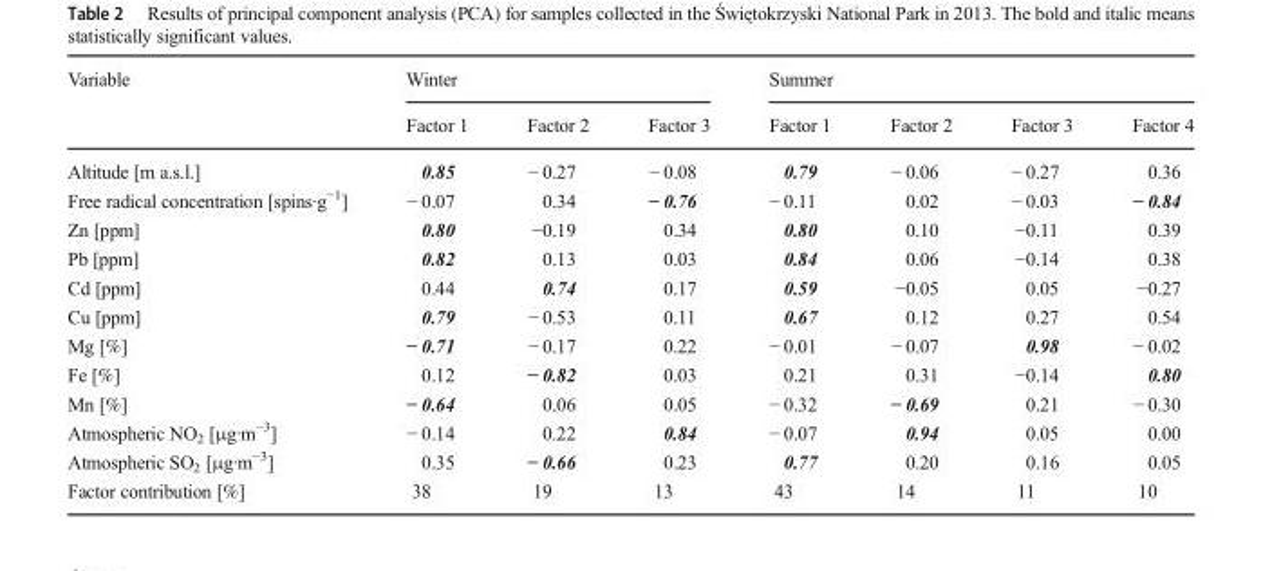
<table><thead><tr><td rowspan="2">Variable</td><td colspan="3">Winter</td><td colspan="4">Summer</td></tr><tr><td>Factor 1</td><td>Factor 2</td><td>Factor 3</td><td>Factor 1</td><td>Factor 2</td><td>Factor 3</td><td>Factor 4</td></tr></thead><tbody><tr><td>Altitude [m a.s.l.]</td><td>0.85</td><td>− 0.27</td><td>− 0.08</td><td>0.79</td><td>− 0.06</td><td>− 0.27</td><td>0.36</td></tr><tr><td>Free radical concentration [spins·g<sup>−1</sup>]</td><td>− 0.07</td><td>0.34</td><td>− 0.76</td><td>− 0.11</td><td>0.02</td><td>− 0.03</td><td>− 0.84</td></tr><tr><td>Zn [ppm]</td><td>0.80</td><td>−0.19</td><td>0.34</td><td>0.80</td><td>0.10</td><td>−0.11</td><td>0.39</td></tr><tr><td>Pb [ppm]</td><td>0.82</td><td>0.13</td><td>0.03</td><td>0.84</td><td>0.06</td><td>−0.14</td><td>0.38</td></tr><tr><td>Cd [ppm]</td><td>0.44</td><td>0.74</td><td>0.17</td><td>0.59</td><td>−0.05</td><td>0.05</td><td>−0.27</td></tr><tr><td>Cu [ppm]</td><td>0.79</td><td>− 0.53</td><td>0.11</td><td>0.67</td><td>0.12</td><td>0.27</td><td>0.54</td></tr><tr><td>Mg [%]</td><td>− 0.71</td><td>− 0.17</td><td>0.22</td><td>− 0.01</td><td>− 0.07</td><td>0.98</td><td>− 0.02</td></tr><tr><td>Fe [%]</td><td>0.12</td><td>− 0.82</td><td>0.03</td><td>0.21</td><td>0.31</td><td>−0.14</td><td>0.80</td></tr><tr><td>Mn [%]</td><td>− 0.64</td><td>0.06</td><td>0.05</td><td>− 0.32</td><td>− 0.69</td><td>0.21</td><td>− 0.30</td></tr><tr><td>Atmospheric NO<sub>2</sub> [μg·m<sup>−3</sup>]</td><td>− 0.14</td><td>0.22</td><td>0.84</td><td>− 0.07</td><td>0.94</td><td>0.05</td><td>0.00</td></tr><tr><td>Atmospheric SO<sub>2</sub> [μg·m<sup>−3</sup>]</td><td>0.35</td><td>− 0.66</td><td>0.23</td><td>0.77</td><td>0.20</td><td>0.16</td><td>0.05</td></tr><tr><td>Factor contribution [%]</td><td>38</td><td>19</td><td>13</td><td>43</td><td>14</td><td>11</td><td>10</td></tr></tbody></table>